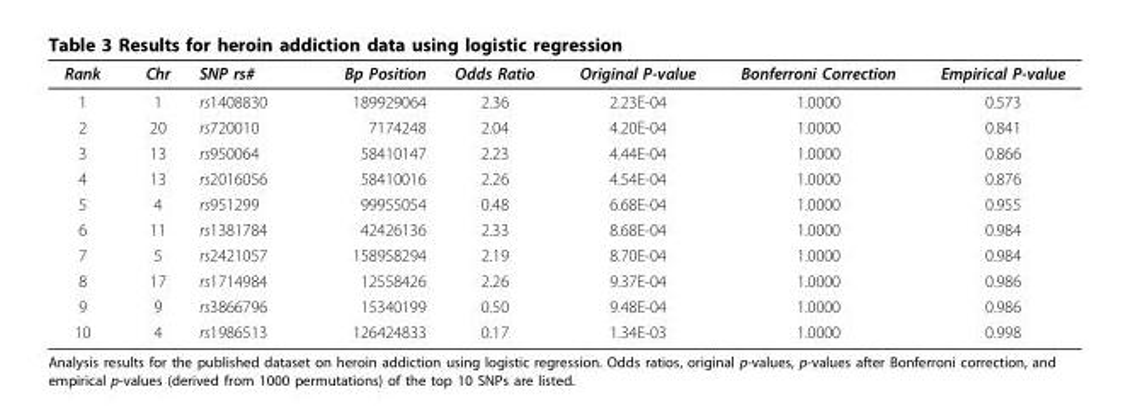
<table><thead><tr><td>Rank</td><td>Chr</td><td>SNP rs#</td><td>Bp Position</td><td>Odds Ratio</td><td>Original P-value</td><td>Bonferroni Correction</td><td>Empirical P-value</td></tr></thead><tbody><tr><td>1</td><td>1</td><td>rs1408830</td><td>189929064</td><td>2.36</td><td>2.23E-04</td><td>1.0000</td><td>0.573</td></tr><tr><td>2</td><td>20</td><td>rs720010</td><td>7174248</td><td>2.04</td><td>4.20E-04</td><td>1.0000</td><td>0.841</td></tr><tr><td>3</td><td>13</td><td>rs950064</td><td>58410147</td><td>2.23</td><td>4.44E-04</td><td>1.0000</td><td>0.866</td></tr><tr><td>4</td><td>13</td><td>rs2016056</td><td>58410016</td><td>2.26</td><td>4.54E-04</td><td>1.0000</td><td>0.876</td></tr><tr><td>5</td><td>4</td><td>rs951299</td><td>99955054</td><td>0.48</td><td>6.68E-04</td><td>1.0000</td><td>0.955</td></tr><tr><td>6</td><td>11</td><td>rs1381784</td><td>42426136</td><td>2.33</td><td>8.68E-04</td><td>1.0000</td><td>0.984</td></tr><tr><td>7</td><td>5</td><td>rs2421057</td><td>158958294</td><td>2.19</td><td>8.70E-04</td><td>1.0000</td><td>0.984</td></tr><tr><td>8</td><td>17</td><td>rs1714984</td><td>12558426</td><td>2.26</td><td>9.37E-04</td><td>1.0000</td><td>0.986</td></tr><tr><td>9</td><td>9</td><td>rs3866796</td><td>15340199</td><td>0.50</td><td>9.48E-04</td><td>1.0000</td><td>0.986</td></tr><tr><td>10</td><td>4</td><td>rs1986513</td><td>126424833</td><td>0.17</td><td>1.34E-03</td><td>1.0000</td><td>0.998</td></tr></tbody></table>